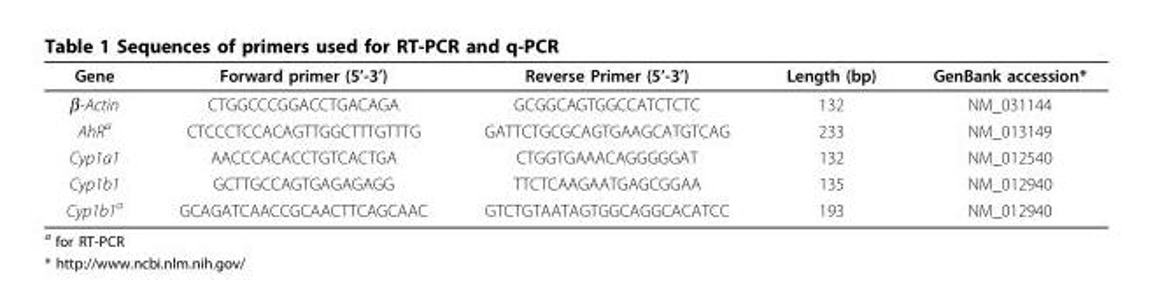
<table><thead><tr><td>Gene</td><td>Forward primer (5’-3’)</td><td>Reverse Primer (5’-3’)</td><td>Length (bp)</td><td>GenBank accession*</td></tr></thead><tbody><tr><td>β-Actin</td><td>CTGGCCCGGACCTGACAGA</td><td>GCGGCAGTGGCCATCTCTC</td><td>132</td><td>NM_031144</td></tr><tr><td>AhR<sup>a</sup></td><td>CTCCCTCCACAGTTGGCTTTGTTTG</td><td>GATTCTGCGCAGTGAAGCATGTCAG</td><td>233</td><td>NM_013149</td></tr><tr><td>Cyp1a1</td><td>AACCCACACCTGTCACTGA</td><td>CTGGTGAAACAGGGGGAT</td><td>132</td><td>NM_012540</td></tr><tr><td>Cyp1b1</td><td>GCTTGCCAGTGAGAGAGG</td><td>TTCTCAAGAATGAGCGGAA</td><td>135</td><td>NM_012940</td></tr><tr><td>Cyp1b1<sup>a</sup></td><td>GCAGATCAACCGCAACTTCAGCAAC</td><td>GTCTGTAATAGTGGCAGGCACATCC</td><td>193</td><td>NM_012940</td></tr></tbody></table>